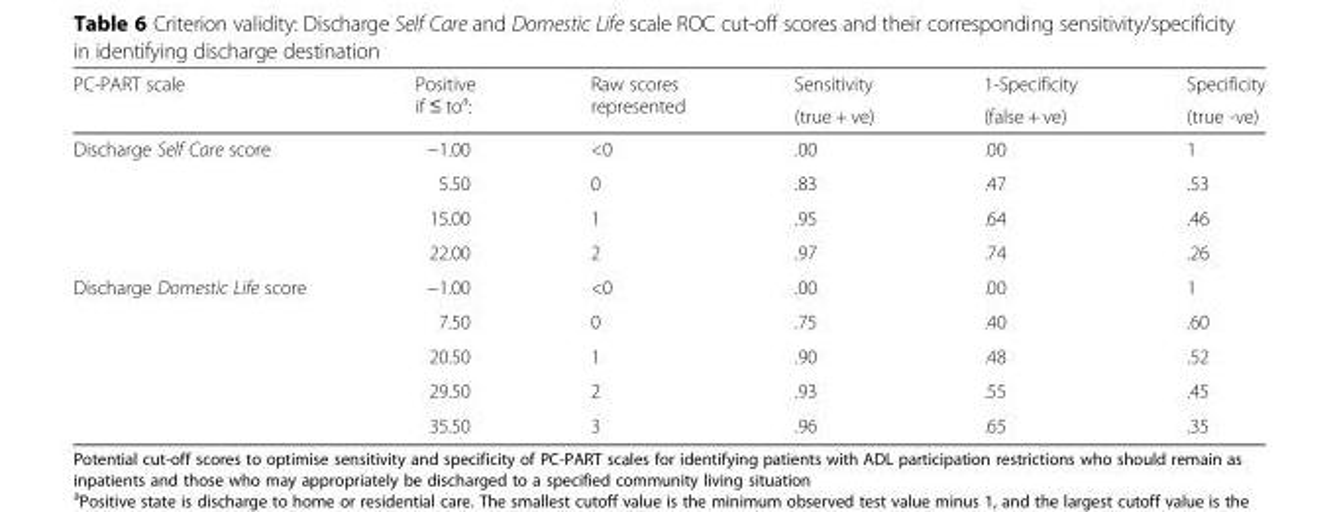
<table><thead><tr><td rowspan="2">PC-PART scale</td><td rowspan="2">Positive if ≤ to<sup>a</sup>:</td><td rowspan="2">Raw scores represented</td><td rowspan="2">Sensitivity (true + ve)</td><td rowspan="2">1-Specificity (false + ve)</td><td rowspan="2">Specificity (true -ve)</td></tr><tr></tr></thead><tbody><tr><td rowspan="4">Discharge Self Care score</td><td>−1.00</td><td>&lt;0</td><td>.00</td><td>.00</td><td>1</td></tr><tr><td>5.50</td><td>0</td><td>.83</td><td>.47</td><td>.53</td></tr><tr><td>15.00</td><td>1</td><td>.95</td><td>.64</td><td>.46</td></tr><tr><td>22.00</td><td>2</td><td>.97</td><td>.74</td><td>.26</td></tr><tr><td rowspan="5">Discharge Domestic Life score</td><td>−1.00</td><td>&lt;0</td><td>.00</td><td>.00</td><td>1</td></tr><tr><td>7.50</td><td>0</td><td>.75</td><td>.40</td><td>.60</td></tr><tr><td>20.50</td><td>1</td><td>.90</td><td>.48</td><td>.52</td></tr><tr><td>29.50</td><td>2</td><td>.93</td><td>.55</td><td>.45</td></tr><tr><td>35.50</td><td>3</td><td>.96</td><td>.65</td><td>.35</td></tr></tbody></table>